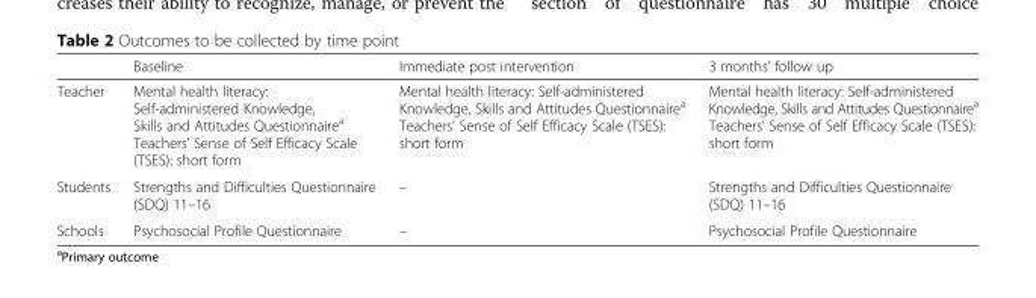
<table><thead><tr><td></td><td>Baseline</td><td>Immediate post intervention</td><td>3 months’ follow up</td></tr></thead><tbody><tr><td>Teacher</td><td>Mental health literacy: Self-administered Knowledge, Skills and Attitudes Questionnaire<sup>a</sup> Teachers’ Sense of Self Efficacy Scale (TSES): short form</td><td>Mental health literacy: Self-administered Knowledge, Skills and Attitudes Questionnaire<sup>a</sup> Teachers’ Sense of Self Efficacy Scale (TSES): short form</td><td>Mental health literacy: Self-administered Knowledge, Skills and Attitudes Questionnaire<sup>a</sup> Teachers’ Sense of Self Efficacy Scale (TSES): short form</td></tr><tr><td>Students</td><td>Strengths and Difficulties Questionnaire (SDQ) 11–16</td><td>–</td><td>Strengths and Difficulties Questionnaire (SDQ) 11–16</td></tr><tr><td>Schools</td><td>Psychosocial Profile Questionnaire</td><td>–</td><td>Psychosocial Profile Questionnaire</td></tr></tbody></table>